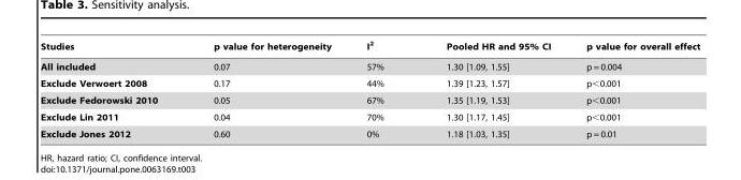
<table><thead><tr><td>Studies</td><td>p value for heterogeneity</td><td>I<sup>2</sup></td><td>Pooled HR and 95% CI</td><td>p value for overall effect</td></tr></thead><tbody><tr><td>All included</td><td>0.07</td><td>57%</td><td>1.30 [1.09, 1.55]</td><td>p = 0.004</td></tr><tr><td>Exclude Verwoert 2008</td><td>0.17</td><td>44%</td><td>1.39 [1.23, 1.57]</td><td>p&lt;0.001</td></tr><tr><td>Exclude Fedorowski 2010</td><td>0.05</td><td>67%</td><td>1.35 [1.19, 1.53]</td><td>p&lt;0.001</td></tr><tr><td>Exclude Lin 2011</td><td>0.04</td><td>70%</td><td>1.30 [1.17, 1.45]</td><td>p&lt;0.001</td></tr><tr><td>Exclude Jones 2012</td><td>0.60</td><td>0%</td><td>1.18 [1.03, 1.35]</td><td>p = 0.01</td></tr></tbody></table>